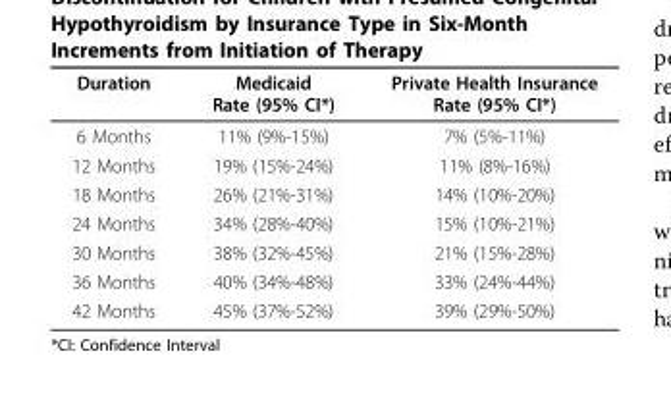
<table><thead><tr><td>Duration</td><td>Medicaid Rate (95% CI*)</td><td>Private Health Insurance Rate (95% CI*)</td></tr></thead><tbody><tr><td>6 Months</td><td>11% (9%-15%)</td><td>7% (5%-11%)</td></tr><tr><td>12 Months</td><td>19% (15%-24%)</td><td>11% (8%-16%)</td></tr><tr><td>18 Months</td><td>26% (21%-31%)</td><td>14% (10%-20%)</td></tr><tr><td>24 Months</td><td>34% (28%-40%)</td><td>15% (10%-21%)</td></tr><tr><td>30 Months</td><td>38% (32%-45%)</td><td>21% (15%-28%)</td></tr><tr><td>36 Months</td><td>40% (34%-48%)</td><td>33% (24%-44%)</td></tr><tr><td>42 Months</td><td>45% (37%-52%)</td><td>39% (29%-50%)</td></tr></tbody></table>